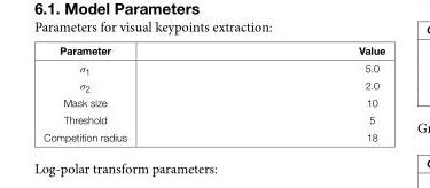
<table><thead><tr><td>Parameter</td><td>Value</td></tr></thead><tbody><tr><td>σ<sub>1</sub></td><td>5.0</td></tr><tr><td>σ<sub>2</sub></td><td>2.0</td></tr><tr><td>Mask size</td><td>10</td></tr><tr><td>Threshold</td><td>5</td></tr><tr><td>Competition radius</td><td>18</td></tr></tbody></table>